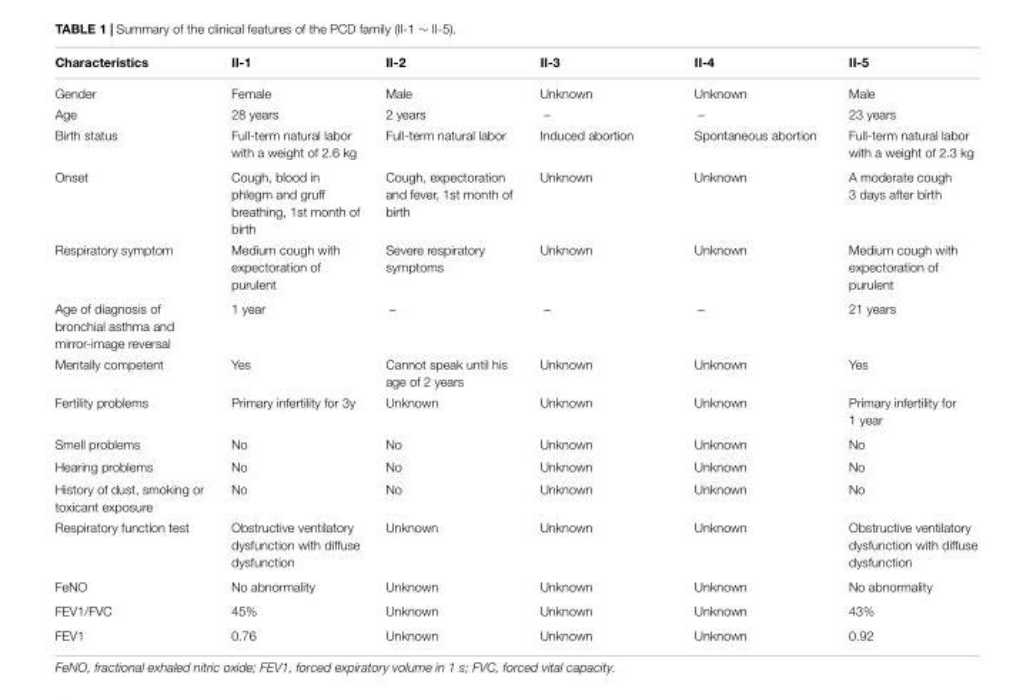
<table><thead><tr><td>Characteristics</td><td>II-1</td><td>II-2</td><td>II-3</td><td>II-4</td><td>II-5</td></tr></thead><tbody><tr><td>Gender</td><td>Female</td><td>Male</td><td>Unknown</td><td>Unknown</td><td>Male</td></tr><tr><td>Age</td><td>28 years</td><td>2 years</td><td>–</td><td>–</td><td>23 years</td></tr><tr><td>Birth status</td><td>Full-term natural labor with a weight of 2.6 kg</td><td>Full-term natural labor</td><td>Induced abortion</td><td>Spontaneous abortion</td><td>Full-term natural labor with a weight of 2.3 kg</td></tr><tr><td>Onset</td><td>Cough, blood in phlegm and gruff breathing, 1st month of birth</td><td>Cough, expectoration and fever, 1st month of birth</td><td>Unknown</td><td>Unknown</td><td>A moderate cough 3 days after birth</td></tr><tr><td>Respiratory symptom</td><td>Medium cough with expectoration of purulent</td><td>Severe respiratory symptoms</td><td>Unknown</td><td>Unknown</td><td>Medium cough with expectoration of purulent</td></tr><tr><td>Age of diagnosis of bronchial asthma and mirror-image reversal</td><td>1 year</td><td>–</td><td>–</td><td>–</td><td>21 years</td></tr><tr><td>Mentally competent</td><td>Yes</td><td>Cannot speak until his age of 2 years</td><td>Unknown</td><td>Unknown</td><td>Yes</td></tr><tr><td>Fertility problems</td><td>Primary infertility for 3y</td><td>Unknown</td><td>Unknown</td><td>Unknown</td><td>Primary infertility for 1 year</td></tr><tr><td>Smell problems</td><td>No</td><td>No</td><td>Unknown</td><td>Unknown</td><td>No</td></tr><tr><td>Hearing problems</td><td>No</td><td>No</td><td>Unknown</td><td>Unknown</td><td>No</td></tr><tr><td>History of dust, smoking or toxicant exposure</td><td>No</td><td>No</td><td>Unknown</td><td>Unknown</td><td>No</td></tr><tr><td>Respiratory function test</td><td>Obstructive ventilatory dysfunction with diffuse dysfunction</td><td>Unknown</td><td>Unknown</td><td>Unknown</td><td>Obstructive ventilatory dysfunction with diffuse dysfunction</td></tr><tr><td>FeNO</td><td>No abnormality</td><td>Unknown</td><td>Unknown</td><td>Unknown</td><td>No abnormality</td></tr><tr><td>FEV1/FVC</td><td>45%</td><td>Unknown</td><td>Unknown</td><td>Unknown</td><td>43%</td></tr><tr><td>FEV1</td><td>0.76</td><td>Unknown</td><td>Unknown</td><td>Unknown</td><td>0.92</td></tr></tbody></table>